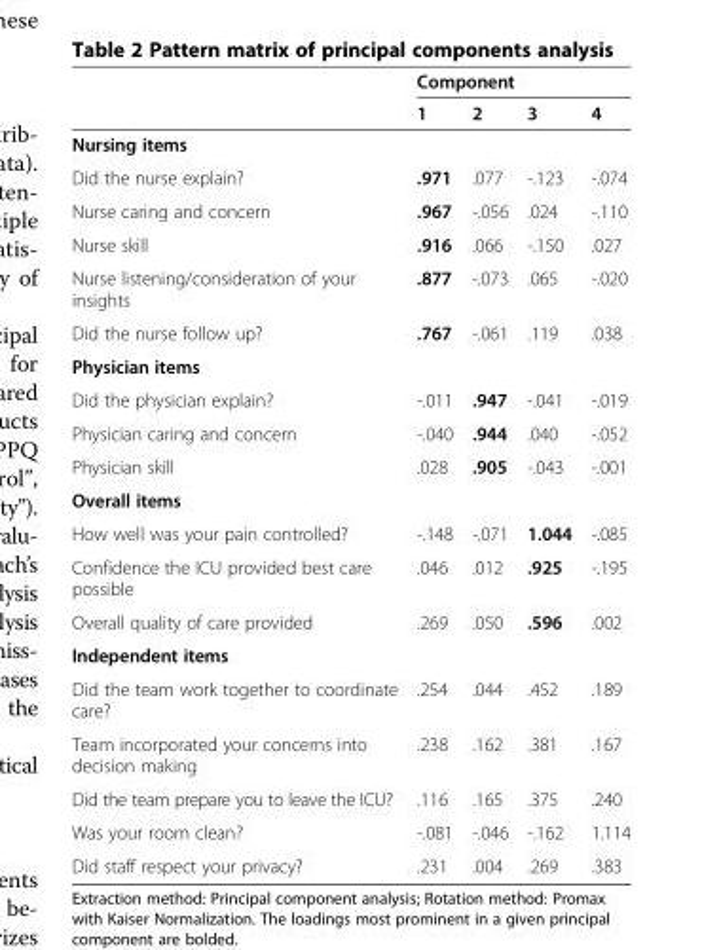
<table><thead><tr><td rowspan="2"></td><td colspan="4">Component</td></tr><tr><td>1</td><td>2</td><td>3</td><td>4</td></tr></thead><tbody><tr><td colspan="5">Nursing items</td></tr><tr><td>Did the nurse explain?</td><td>.971</td><td>.077</td><td>-.123</td><td>-.074</td></tr><tr><td>Nurse caring and concern</td><td>.967</td><td>-.056</td><td>.024</td><td>-.110</td></tr><tr><td>Nurse skill</td><td>.916</td><td>.066</td><td>-.150</td><td>.027</td></tr><tr><td>Nurse listening/consideration of your insights</td><td>.877</td><td>-.073</td><td>.065</td><td>-.020</td></tr><tr><td>Did the nurse follow up?</td><td>.767</td><td>-.061</td><td>.119</td><td>.038</td></tr><tr><td colspan="5">Physician items</td></tr><tr><td>Did the physician explain?</td><td>-.011</td><td>.947</td><td>-.041</td><td>-.019</td></tr><tr><td>Physician caring and concern</td><td>-.040</td><td>.944</td><td>.040</td><td>-.052</td></tr><tr><td>Physician skill</td><td>.028</td><td>.905</td><td>-.043</td><td>-.001</td></tr><tr><td colspan="5">Overall items</td></tr><tr><td>How well was your pain controlled?</td><td>-.148</td><td>-.071</td><td>1.044</td><td>-.085</td></tr><tr><td>Confidence the ICU provided best care possible</td><td>.046</td><td>.012</td><td>.925</td><td>-.195</td></tr><tr><td>Overall quality of care provided</td><td>.269</td><td>.050</td><td>.596</td><td>.002</td></tr><tr><td colspan="5">Independent items</td></tr><tr><td>Did the team work together to coordinate care?</td><td>.254</td><td>.044</td><td>.452</td><td>.189</td></tr><tr><td>Team incorporated your concerns into decision making</td><td>.238</td><td>.162</td><td>.381</td><td>.167</td></tr><tr><td>Did the team prepare you to leave the ICU?</td><td>.116</td><td>.165</td><td>.375</td><td>.240</td></tr><tr><td>Was your room clean?</td><td>-.081</td><td>-.046</td><td>-.162</td><td>1.114</td></tr><tr><td>Did staff respect your privacy?</td><td>.231</td><td>.004</td><td>.269</td><td>.383</td></tr></tbody></table>